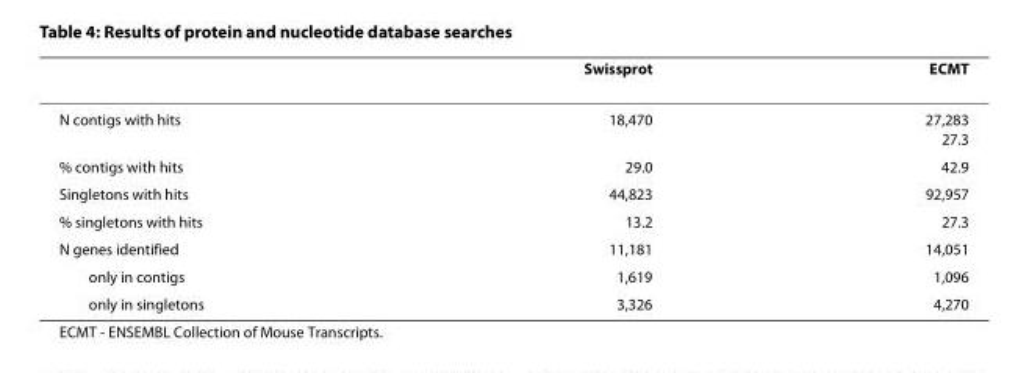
<table><thead><tr><td></td><td>Swissprot</td><td>ECMT</td></tr></thead><tbody><tr><td>N contigs with hits</td><td>18,470</td><td>27,283 27.3</td></tr><tr><td>% contigs with hits</td><td>29.0</td><td>42.9</td></tr><tr><td>Singletons with hits</td><td>44,823</td><td>92,957</td></tr><tr><td>% singletons with hits</td><td>13.2</td><td>27.3</td></tr><tr><td>N genes identified</td><td>11,181</td><td>14,051</td></tr><tr><td>only in contigs</td><td>1,619</td><td>1,096</td></tr><tr><td>only in singletons</td><td>3,326</td><td>4,270</td></tr></tbody></table>